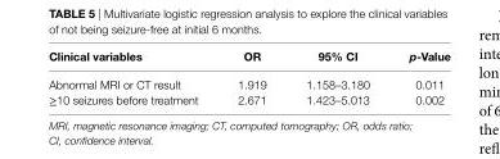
<table><thead><tr><td>clinical variables</td><td>Or</td><td>95% ci</td><td>p-Value</td></tr></thead><tbody><tr><td>Abnormal MRI or CT result</td><td>1.919</td><td>1.158–3.180</td><td>0.011</td></tr><tr><td>≥10 seizures before treatment</td><td>2.671</td><td>1.423–5.013</td><td>0.002</td></tr></tbody></table>